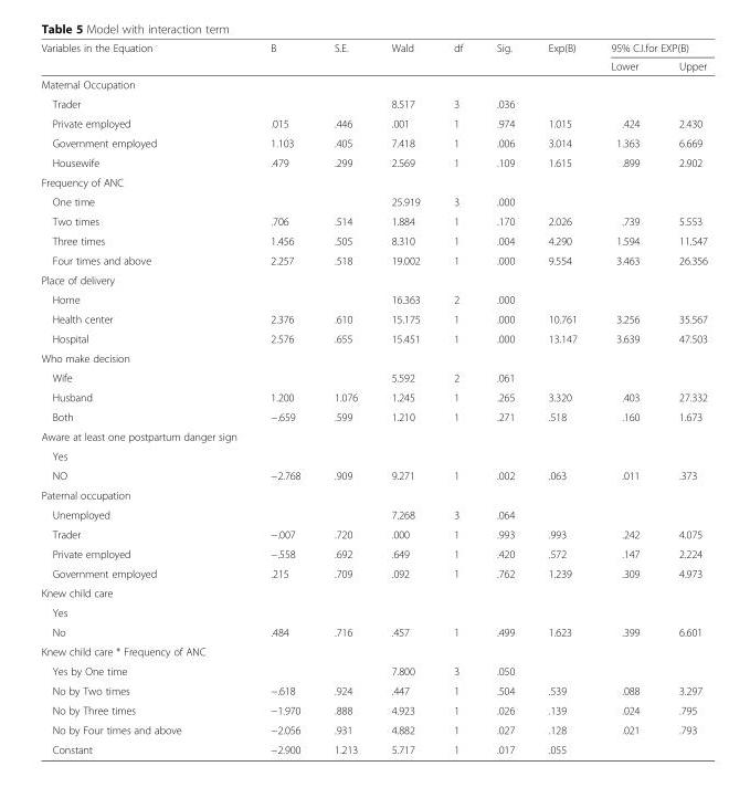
<table><thead><tr><td rowspan="2">Variables in the Equation</td><td rowspan="2">B</td><td rowspan="2">S.E.</td><td rowspan="2">Wald</td><td rowspan="2">df</td><td rowspan="2">Sig.</td><td rowspan="2">Exp(B)</td><td colspan="2">95% C.I.for EXP(B)</td></tr><tr><td>Lower</td><td>Upper</td></tr></thead><tbody><tr><td colspan="9">Maternal Occupation</td></tr><tr><td>Trader</td><td></td><td></td><td>8.517</td><td>3</td><td>.036</td><td></td><td></td><td></td></tr><tr><td>Private employed</td><td>.015</td><td>.446</td><td>.001</td><td>1</td><td>.974</td><td>1.015</td><td>.424</td><td>2.430</td></tr><tr><td>Government employed</td><td>1.103</td><td>.405</td><td>7.418</td><td>1</td><td>.006</td><td>3.014</td><td>1.363</td><td>6.669</td></tr><tr><td>Housewife</td><td>.479</td><td>.299</td><td>2.569</td><td>1</td><td>.109</td><td>1.615</td><td>.899</td><td>2.902</td></tr><tr><td colspan="9">Frequency of ANC</td></tr><tr><td>One time</td><td></td><td></td><td>25.919</td><td>3</td><td>.000</td><td></td><td></td><td></td></tr><tr><td>Two times</td><td>.706</td><td>.514</td><td>1.884</td><td>1</td><td>.170</td><td>2.026</td><td>.739</td><td>5.553</td></tr><tr><td>Three times</td><td>1.456</td><td>.505</td><td>8.310</td><td>1</td><td>.004</td><td>4.290</td><td>1.594</td><td>11.547</td></tr><tr><td>Four times and above</td><td>2.257</td><td>.518</td><td>19.002</td><td>1</td><td>.000</td><td>9.554</td><td>3.463</td><td>26.356</td></tr><tr><td colspan="9">Place of delivery</td></tr><tr><td>Home</td><td></td><td></td><td>16.363</td><td>2</td><td>.000</td><td></td><td></td><td></td></tr><tr><td>Health center</td><td>2.376</td><td>.610</td><td>15.175</td><td>1</td><td>.000</td><td>10.761</td><td>3.256</td><td>35.567</td></tr><tr><td>Hospital</td><td>2.576</td><td>.655</td><td>15.451</td><td>1</td><td>.000</td><td>13.147</td><td>3.639</td><td>47.503</td></tr><tr><td colspan="9">Who make decision</td></tr><tr><td>Wife</td><td></td><td></td><td>5.592</td><td>2</td><td>.061</td><td></td><td></td><td></td></tr><tr><td>Husband</td><td>1.200</td><td>1.076</td><td>1.245</td><td>1</td><td>.265</td><td>3.320</td><td>.403</td><td>27.332</td></tr><tr><td>Both</td><td>−.659</td><td>.599</td><td>1.210</td><td>1</td><td>.271</td><td>.518</td><td>.160</td><td>1.673</td></tr><tr><td colspan="9">Aware at least one postpartum danger sign</td></tr><tr><td colspan="9">Yes</td></tr><tr><td>NO</td><td>−2.768</td><td>.909</td><td>9.271</td><td>1</td><td>.002</td><td>.063</td><td>.011</td><td>.373</td></tr><tr><td colspan="9">Paternal occupation</td></tr><tr><td>Unemployed</td><td></td><td></td><td>7.268</td><td>3</td><td>.064</td><td></td><td></td><td></td></tr><tr><td>Trader</td><td>−.007</td><td>.720</td><td>.000</td><td>1</td><td>.993</td><td>.993</td><td>.242</td><td>4.075</td></tr><tr><td>Private employed</td><td>−.558</td><td>.692</td><td>.649</td><td>1</td><td>.420</td><td>.572</td><td>.147</td><td>2.224</td></tr><tr><td>Government employed</td><td>.215</td><td>.709</td><td>.092</td><td>1</td><td>.762</td><td>1.239</td><td>.309</td><td>4.973</td></tr><tr><td colspan="9">Knew child care</td></tr><tr><td colspan="9">Yes</td></tr><tr><td>No</td><td>.484</td><td>.716</td><td>.457</td><td>1</td><td>.499</td><td>1.623</td><td>.399</td><td>6.601</td></tr><tr><td colspan="9">Knew child care * Frequency of ANC</td></tr><tr><td>Yes by One time</td><td></td><td></td><td>7.800</td><td>3</td><td>.050</td><td></td><td></td><td></td></tr><tr><td>No by Two times</td><td>−.618</td><td>.924</td><td>.447</td><td>1</td><td>.504</td><td>.539</td><td>.088</td><td>3.297</td></tr><tr><td>No by Three times</td><td>−1.970</td><td>.888</td><td>4.923</td><td>1</td><td>.026</td><td>.139</td><td>.024</td><td>.795</td></tr><tr><td>No by Four times and above</td><td>−2.056</td><td>.931</td><td>4.882</td><td>1</td><td>.027</td><td>.128</td><td>.021</td><td>.793</td></tr><tr><td>Constant</td><td>−2.900</td><td>1.213</td><td>5.717</td><td>1</td><td>.017</td><td>.055</td><td></td><td></td></tr></tbody></table>